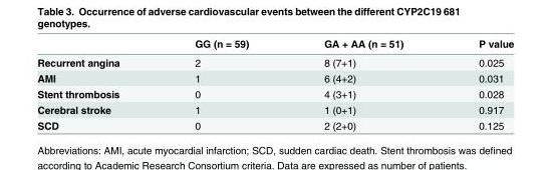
<table><thead><tr><td></td><td>GG (n = 59)</td><td>GA + AA (n = 51)</td><td>P value</td></tr></thead><tbody><tr><td>Recurrent angina</td><td>2</td><td>8 (7+1)</td><td>0.025</td></tr><tr><td>AMI</td><td>1</td><td>6 (4+2)</td><td>0.031</td></tr><tr><td>Stent thrombosis</td><td>0</td><td>4 (3+1)</td><td>0.028</td></tr><tr><td>Cerebral stroke</td><td>1</td><td>1 (0+1)</td><td>0.917</td></tr><tr><td>SCD</td><td>0</td><td>2 (2+0)</td><td>0.125</td></tr></tbody></table>